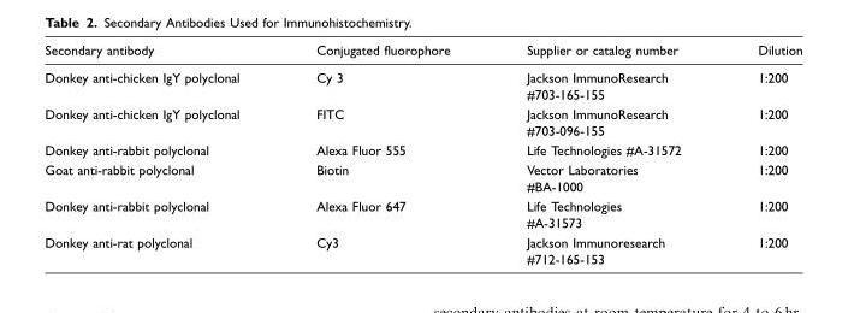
<table><thead><tr><td>Secondary antibody</td><td>Conjugated fluorophore</td><td>Supplier or catalog number</td><td>Dilution</td></tr></thead><tbody><tr><td>Donkey anti-chicken IgY polyclonal</td><td>Cy 3</td><td>Jackson ImmunoResearch #703-165-155</td><td>1:200</td></tr><tr><td>Donkey anti-chicken IgY polyclonal</td><td>FITC</td><td>Jackson ImmunoResearch #703-096-155</td><td>1:200</td></tr><tr><td>Donkey anti-rabbit polyclonal</td><td>Alexa Fluor 555</td><td>Life Technologies #A-31572</td><td>1:200</td></tr><tr><td>Goat anti-rabbit polyclonal</td><td>Biotin</td><td>Vector Laboratories #BA-1000</td><td>1:200</td></tr><tr><td>Donkey anti-rabbit polyclonal</td><td>Alexa Fluor 647</td><td>Life Technologies #A-31573</td><td>1:200</td></tr><tr><td>Donkey anti-rat polyclonal</td><td>Cy3</td><td>Jackson Immunoresearch #712-165-153</td><td>1:200</td></tr></tbody></table>